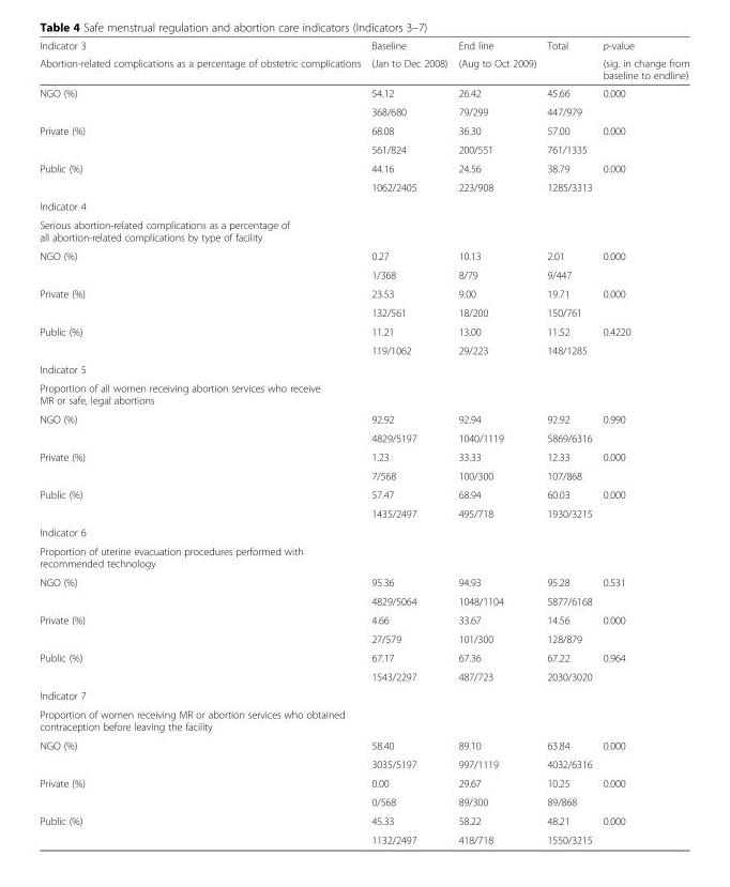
<table><thead><tr><td rowspan="2">Indicator 3 Abortion-related complications as a percentage of obstetric complications</td><td rowspan="2">Baseline (Jan to Dec 2008)</td><td rowspan="2">End line (Aug to Oct 2009)</td><td rowspan="2">Total</td><td rowspan="2">p-value (sig. in change from baseline to endline)</td></tr><tr></tr></thead><tbody><tr><td rowspan="2">NGO (%)</td><td>54.12</td><td>26.42</td><td>45.66</td><td rowspan="2">0.000</td></tr><tr><td>368/680</td><td>79/299</td><td>447/979</td></tr><tr><td rowspan="2">Private (%)</td><td>68.08</td><td>36.30</td><td>57.00</td><td rowspan="2">0.000</td></tr><tr><td>561/824</td><td>200/551</td><td>761/1335</td></tr><tr><td rowspan="2">Public (%)</td><td>44.16</td><td>24.56</td><td>38.79</td><td rowspan="2">0.000</td></tr><tr><td>1062/2405</td><td>223/908</td><td>1285/3313</td></tr><tr><td>Indicator 4</td><td rowspan="2"></td><td rowspan="2"></td><td rowspan="2"></td><td rowspan="2"></td></tr><tr><td>Serious abortion-related complications as a percentage of all abortion-related complications by type of facility</td></tr><tr><td rowspan="2">NGO (%)</td><td>0.27</td><td>10.13</td><td>2.01</td><td rowspan="2">0.000</td></tr><tr><td>1/368</td><td>8/79</td><td>9/447</td></tr><tr><td rowspan="2">Private (%)</td><td>23.53</td><td>9.00</td><td>19.71</td><td rowspan="2">0.000</td></tr><tr><td>132/561</td><td>18/200</td><td>150/761</td></tr><tr><td rowspan="2">Public (%)</td><td>11.21</td><td>13.00</td><td>11.52</td><td rowspan="2">0.4220</td></tr><tr><td>119/1062</td><td>29/223</td><td>148/1285</td></tr><tr><td>Indicator 5</td><td rowspan="2"></td><td rowspan="2"></td><td rowspan="2"></td><td rowspan="2"></td></tr><tr><td>Proportion of all women receiving abortion services who receive MR or safe, legal abortions</td></tr><tr><td rowspan="2">NGO (%)</td><td>92.92</td><td>92.94</td><td>92.92</td><td rowspan="2">0.990</td></tr><tr><td>4829/5197</td><td>1040/1119</td><td>5869/6316</td></tr><tr><td rowspan="2">Private (%)</td><td>1.23</td><td>33.33</td><td>12.33</td><td rowspan="2">0.000</td></tr><tr><td>7/568</td><td>100/300</td><td>107/868</td></tr><tr><td rowspan="2">Public (%)</td><td>57.47</td><td>68.94</td><td>60.03</td><td rowspan="2">0.000</td></tr><tr><td>1435/2497</td><td>495/718</td><td>1930/3215</td></tr><tr><td>Indicator 6</td><td rowspan="2"></td><td rowspan="2"></td><td rowspan="2"></td><td rowspan="2"></td></tr><tr><td>Proportion of uterine evacuation procedures performed with recommended technology</td></tr><tr><td rowspan="2">NGO (%)</td><td>95.36</td><td>94.93</td><td>95.28</td><td rowspan="2">0.531</td></tr><tr><td>4829/5064</td><td>1048/1104</td><td>5877/6168</td></tr><tr><td rowspan="2">Private (%)</td><td>4.66</td><td>33.67</td><td>14.56</td><td rowspan="2">0.000</td></tr><tr><td>27/579</td><td>101/300</td><td>128/879</td></tr><tr><td rowspan="2">Public (%)</td><td>67.17</td><td>67.36</td><td>67.22</td><td rowspan="2">0.964</td></tr><tr><td>1543/2297</td><td>487/723</td><td>2030/3020</td></tr><tr><td>Indicator 7</td><td rowspan="2"></td><td rowspan="2"></td><td rowspan="2"></td><td rowspan="2"></td></tr><tr><td>Proportion of women receiving MR or abortion services who obtained contraception before leaving the facility</td></tr><tr><td rowspan="2">NGO (%)</td><td>58.40</td><td>89.10</td><td>63.84</td><td rowspan="2">0.000</td></tr><tr><td>3035/5197</td><td>997/1119</td><td>4032/6316</td></tr><tr><td rowspan="2">Private (%)</td><td>0.00</td><td>29.67</td><td>10.25</td><td rowspan="2">0.000</td></tr><tr><td>0/568</td><td>89/300</td><td>89/868</td></tr><tr><td rowspan="2">Public (%)</td><td>45.33</td><td>58.22</td><td>48.21</td><td rowspan="2">0.000</td></tr><tr><td>1132/2497</td><td>418/718</td><td>1550/3215</td></tr></tbody></table>